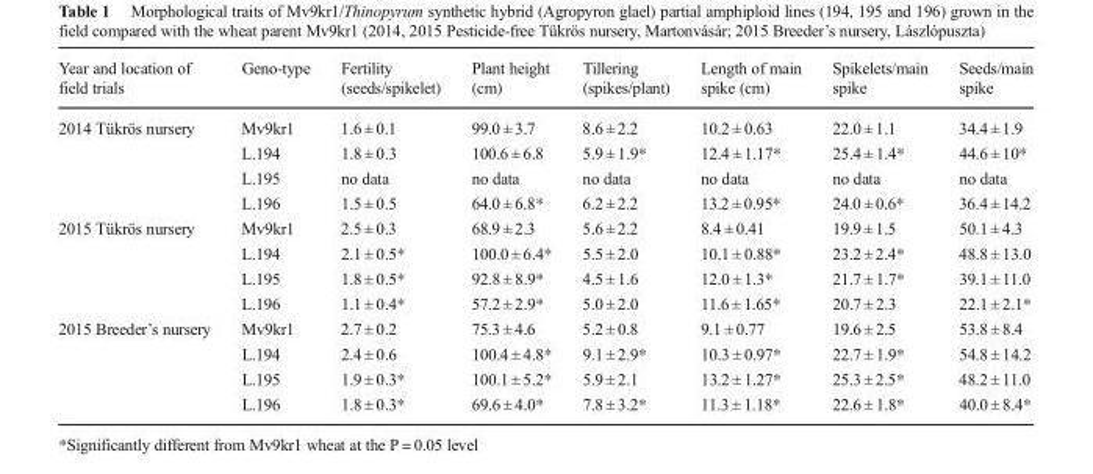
<table><thead><tr><td>Year and location of field trials</td><td>Geno-type</td><td>Fertility (seeds/spikelet)</td><td>Plant height (cm)</td><td>Tillering (spikes/plant)</td><td>Length of main spike (cm)</td><td>Spikelets/main spike</td><td>Seeds/main spike</td></tr></thead><tbody><tr><td rowspan="4">2014 Tükrös nursery</td><td>Mv9kr1</td><td>1.6 ± 0.1</td><td>99.0 ± 3.7</td><td>8.6 ± 2.2</td><td>10.2 ± 0.63</td><td>22.0 ± 1.1</td><td>34.4 ± 1.9</td></tr><tr><td>L.194</td><td>1.8 ± 0.3</td><td>100.6 ± 6.8</td><td>5.9 ± 1.9*</td><td>12.4 ± 1.17*</td><td>25.4 ± 1.4*</td><td>44.6 ± 10*</td></tr><tr><td>L.195</td><td>no data</td><td>no data</td><td>no data</td><td>no data</td><td>no data</td><td>no data</td></tr><tr><td>L.196</td><td>1.5 ± 0.5</td><td>64.0 ± 6.8*</td><td>6.2 ± 2.2</td><td>13.2 ± 0.95*</td><td>24.0 ± 0.6*</td><td>36.4 ± 14.2</td></tr><tr><td rowspan="4">2015 Tükrös nursery</td><td>Mv9kr1</td><td>2.5 ± 0.3</td><td>68.9 ± 2.3</td><td>5.6 ± 2.2</td><td>8.4 ± 0.41</td><td>19.9 ± 1.5</td><td>50.1 ± 4.3</td></tr><tr><td>L.194</td><td>2.1 ± 0.5*</td><td>100.0 ± 6.4*</td><td>5.5 ± 2.0</td><td>10.1 ± 0.88*</td><td>23.2 ± 2.4*</td><td>48.8 ± 13.0</td></tr><tr><td>L.195</td><td>1.8 ± 0.5*</td><td>92.8 ± 8.9*</td><td>4.5 ± 1.6</td><td>12.0 ± 1.3*</td><td>21.7 ± 1.7*</td><td>39.1 ± 11.0</td></tr><tr><td>L.196</td><td>1.1 ± 0.4*</td><td>57.2 ± 2.9*</td><td>5.0 ± 2.0</td><td>11.6 ± 1.65*</td><td>20.7 ± 2.3</td><td>22.1 ± 2.1*</td></tr><tr><td rowspan="4">2015 Breeder’s nursery</td><td>Mv9kr1</td><td>2.7 ± 0.2</td><td>75.3 ± 4.6</td><td>5.2 ± 0.8</td><td>9.1 ± 0.77</td><td>19.6 ± 2.5</td><td>53.8 ± 8.4</td></tr><tr><td>L.194</td><td>2.4 ± 0.6</td><td>100.4 ± 4.8*</td><td>9.1 ± 2.9*</td><td>10.3 ± 0.97*</td><td>22.7 ± 1.9*</td><td>54.8 ± 14.2</td></tr><tr><td>L.195</td><td>1.9 ± 0.3*</td><td>100.1 ± 5.2*</td><td>5.9 ± 2.1</td><td>13.2 ± 1.27*</td><td>25.3 ± 2.5*</td><td>48.2 ± 11.0</td></tr><tr><td>L.196</td><td>1.8 ± 0.3*</td><td>69.6 ± 4.0*</td><td>7.8 ± 3.2*</td><td>11.3 ± 1.18*</td><td>22.6 ± 1.8*</td><td>40.0 ± 8.4*</td></tr></tbody></table>